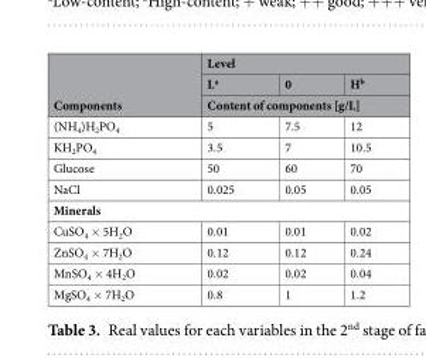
<table><thead><tr><td rowspan="3">Components</td><td colspan="3">Level</td></tr><tr><td>L<sup>a</sup></td><td>0</td><td>H<sup>b</sup></td></tr><tr><td colspan="3">Content of components [g/L]</td></tr></thead><tbody><tr><td>(NH<sub>4</sub>)H<sub>2</sub>PO<sub>4</sub></td><td>5</td><td>7.5</td><td>12</td></tr><tr><td>KH<sub>2</sub>PO<sub>4</sub></td><td>3.5</td><td>7</td><td>10.5</td></tr><tr><td>Glucose</td><td>50</td><td>60</td><td>70</td></tr><tr><td>NaCl</td><td>0.025</td><td>0.05</td><td>0.05</td></tr><tr><td colspan="4">Minerals</td></tr><tr><td>CuSO<sub>4</sub> × 5H<sub>2</sub>O</td><td>0.01</td><td>0.01</td><td>0.02</td></tr><tr><td>ZnSO<sub>4</sub> × 7H<sub>2</sub>O</td><td>0.12</td><td>0.12</td><td>0.24</td></tr><tr><td>MnSO<sub>4</sub> × 4H<sub>2</sub>O</td><td>0.02</td><td>0.02</td><td>0.04</td></tr><tr><td>MgSO<sub>4</sub> × 7H<sub>2</sub>O</td><td>0.8</td><td>1</td><td>1.2</td></tr></tbody></table>